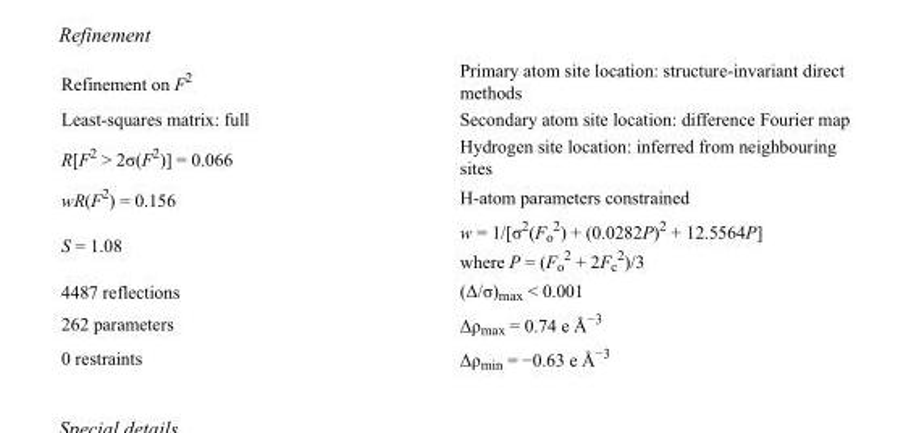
<table><tbody><tr><td>Refinement on F<sup>2</sup></td><td>Primary atom site location: structure-invariant direct methods</td></tr><tr><td>Least-squares matrix: full</td><td>Secondary atom site location: difference Fourier map</td></tr><tr><td>R[F<sup>2</sup> &gt; 2σ(F<sup>2</sup>)] = 0.066</td><td>Hydrogen site location: inferred from neighbouring sites</td></tr><tr><td>wR(F<sup>2</sup>) = 0.156</td><td>H-atom parameters constrained</td></tr><tr><td>S = 1.08</td><td>w = 1/[σ<sup>2</sup>(F<sub>o</sub> <sup>2</sup>) + (0.0282P)<sup>2</sup> + 12.5564P] where P = (F<sub>o</sub> <sup>2</sup> + 2F<sub>c</sub> <sup>2</sup>)/3</td></tr><tr><td>4487 reflections</td><td>(Δ/σ)<sub>max</sub> &lt; 0.001</td></tr><tr><td>262 parameters</td><td>Δρ<sub>max</sub> = 0.74 e Å<sup>−3</sup></td></tr><tr><td>0 restraints</td><td>Δρmin = −0.63 e Å−3</td></tr></tbody></table>